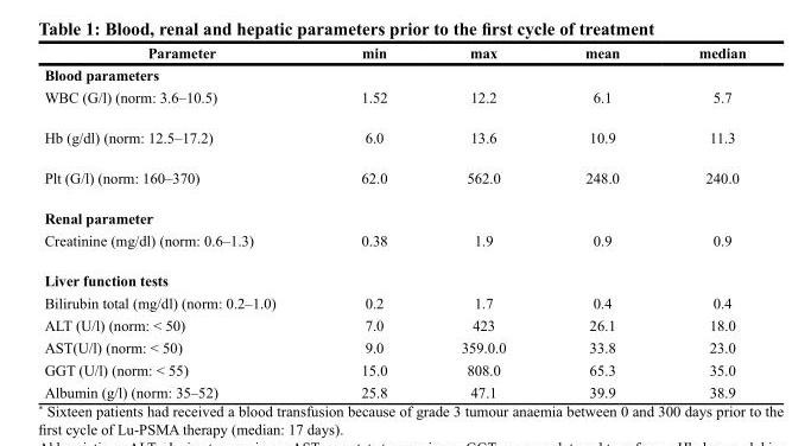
<table><thead><tr><td>Parameter</td><td>min</td><td>max</td><td>mean</td><td>median</td></tr></thead><tbody><tr><td colspan="5">Blood parameters</td></tr><tr><td>WBC (G/l) (norm: 3.6–10.5)</td><td>1.52</td><td>12.2</td><td>6.1</td><td>5.7</td></tr><tr><td>Hb (g/dl) (norm: 12.5–17.2)</td><td>6.0</td><td>13.6</td><td>10.9</td><td>11.3</td></tr><tr><td>Plt (G/l) (norm: 160–370)</td><td>62.0</td><td>562.0</td><td>248.0</td><td>240.0</td></tr><tr><td colspan="5">Renal parameter</td></tr><tr><td>Creatinine (mg/dl) (norm: 0.6–1.3)</td><td>0.38</td><td>1.9</td><td>0.9</td><td>0.9</td></tr><tr><td colspan="5">Liver function tests</td></tr><tr><td>Bilirubin total (mg/dl) (norm: 0.2–1.0)</td><td>0.2</td><td>1.7</td><td>0.4</td><td>0.4</td></tr><tr><td>ALT (U/l) (norm: &lt; 50)</td><td>7.0</td><td>423</td><td>26.1</td><td>18.0</td></tr><tr><td>AST(U/l) (norm: &lt; 50)</td><td>9.0</td><td>359.0.0</td><td>33.8</td><td>23.0</td></tr><tr><td>GGT (U/l) (norm: &lt; 55)</td><td>15.0</td><td>808.0</td><td>65.3</td><td>35.0</td></tr><tr><td>Albumin (g/l) (norm: 35–52)</td><td>25.8</td><td>47.1</td><td>39.9</td><td>38.9</td></tr></tbody></table>